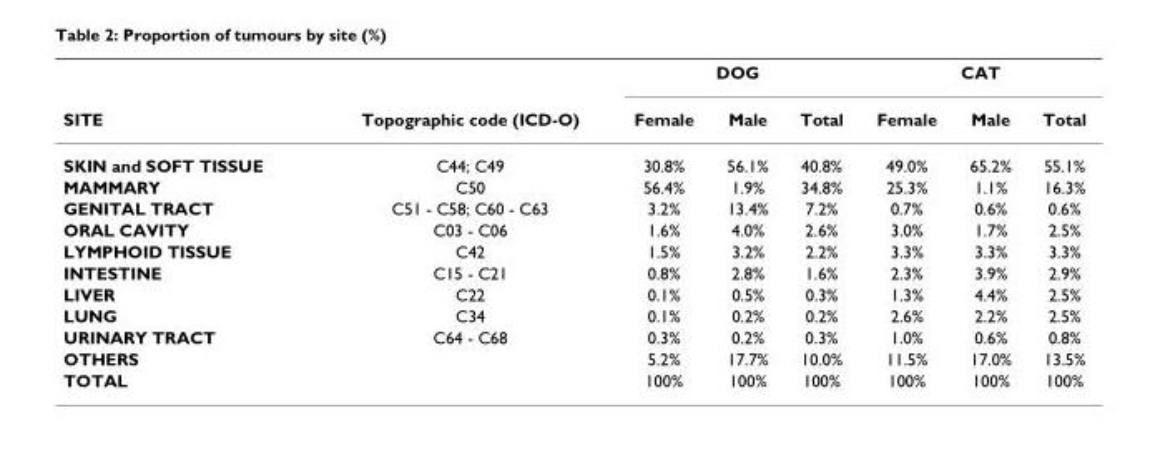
<table><thead><tr><td rowspan="2">SITE</td><td rowspan="2">Topographic code (ICD-O)</td><td colspan="3">DOG</td><td colspan="3">CAT</td></tr><tr><td>Female</td><td>Male</td><td>Total</td><td>Female</td><td>Male</td><td>Total</td></tr></thead><tbody><tr><td>SKIN and SOFT TISSUE</td><td>C44; C49</td><td>30.8%</td><td>56.1%</td><td>40.8%</td><td>49.0%</td><td>65.2%</td><td>55.1%</td></tr><tr><td>MAMMARY</td><td>C50</td><td>56.4%</td><td>1.9%</td><td>34.8%</td><td>25.3%</td><td>1.1%</td><td>16.3%</td></tr><tr><td>GENITAL TRACT</td><td>C51 - C58; C60 - C63</td><td>3.2%</td><td>13.4%</td><td>7.2%</td><td>0.7%</td><td>0.6%</td><td>0.6%</td></tr><tr><td>ORAL CAVITY</td><td>C03 - C06</td><td>1.6%</td><td>4.0%</td><td>2.6%</td><td>3.0%</td><td>1.7%</td><td>2.5%</td></tr><tr><td>LYMPHOID TISSUE</td><td>C42</td><td>1.5%</td><td>3.2%</td><td>2.2%</td><td>3.3%</td><td>3.3%</td><td>3.3%</td></tr><tr><td>INTESTINE</td><td>C15 - C21</td><td>0.8%</td><td>2.8%</td><td>1.6%</td><td>2.3%</td><td>3.9%</td><td>2.9%</td></tr><tr><td>LIVER</td><td>C22</td><td>0.1%</td><td>0.5%</td><td>0.3%</td><td>1.3%</td><td>4.4%</td><td>2.5%</td></tr><tr><td>LUNG</td><td>C34</td><td>0.1%</td><td>0.2%</td><td>0.2%</td><td>2.6%</td><td>2.2%</td><td>2.5%</td></tr><tr><td>URINARY TRACT</td><td>C64 - C68</td><td>0.3%</td><td>0.2%</td><td>0.3%</td><td>1.0%</td><td>0.6%</td><td>0.8%</td></tr><tr><td>OTHERS</td><td></td><td>5.2%</td><td>17.7%</td><td>10.0%</td><td>11.5%</td><td>17.0%</td><td>13.5%</td></tr><tr><td>TOTAL</td><td></td><td>100%</td><td>100%</td><td>100%</td><td>100%</td><td>100%</td><td>100%</td></tr></tbody></table>